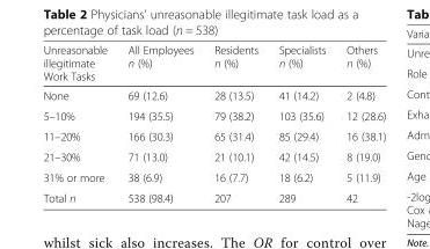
<table><thead><tr><td>Unreasonable illegitimate Work Tasks</td><td>All Employees n (%)</td><td>Residents n (%)</td><td>Specialists n (%)</td><td>Others n (%)</td></tr></thead><tbody><tr><td>None</td><td>69 (12.6)</td><td>28 (13.5)</td><td>41 (14.2)</td><td>2 (4.8)</td></tr><tr><td>5–10%</td><td>194 (35.5)</td><td>79 (38.2)</td><td>103 (35.6)</td><td>12 (28.6)</td></tr><tr><td>11–20%</td><td>166 (30.3)</td><td>65 (31.4)</td><td>85 (29.4)</td><td>16 (38.1)</td></tr><tr><td>21–30%</td><td>71 (13.0)</td><td>21 (10.1)</td><td>42 (14.5)</td><td>8 (19.0)</td></tr><tr><td>31% or more</td><td>38 (6.9)</td><td>16 (7.7)</td><td>18 (6.2)</td><td>5 (11.9)</td></tr><tr><td>Total n</td><td>538 (98.4)</td><td>207</td><td>289</td><td>42</td></tr></tbody></table>